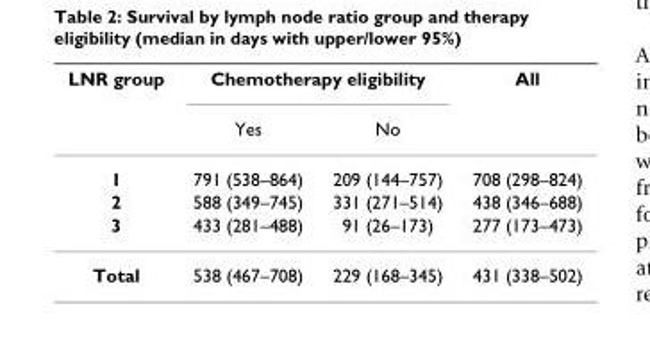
<table><thead><tr><td rowspan="2">LNR group</td><td colspan="2">Chemotherapy eligibility</td><td rowspan="2">All</td></tr><tr><td>Yes</td><td>No</td></tr></thead><tbody><tr><td>1</td><td>791 (538–864)</td><td>209 (144–757)</td><td>708 (298–824)</td></tr><tr><td>2</td><td>588 (349–745)</td><td>331 (271–514)</td><td>438 (346–688)</td></tr><tr><td>3</td><td>433 (281–488)</td><td>91 (26–173)</td><td>277 (173–473)</td></tr><tr><td>Total</td><td>538 (467–708)</td><td>229 (168–345)</td><td>431 (338–502)</td></tr></tbody></table>